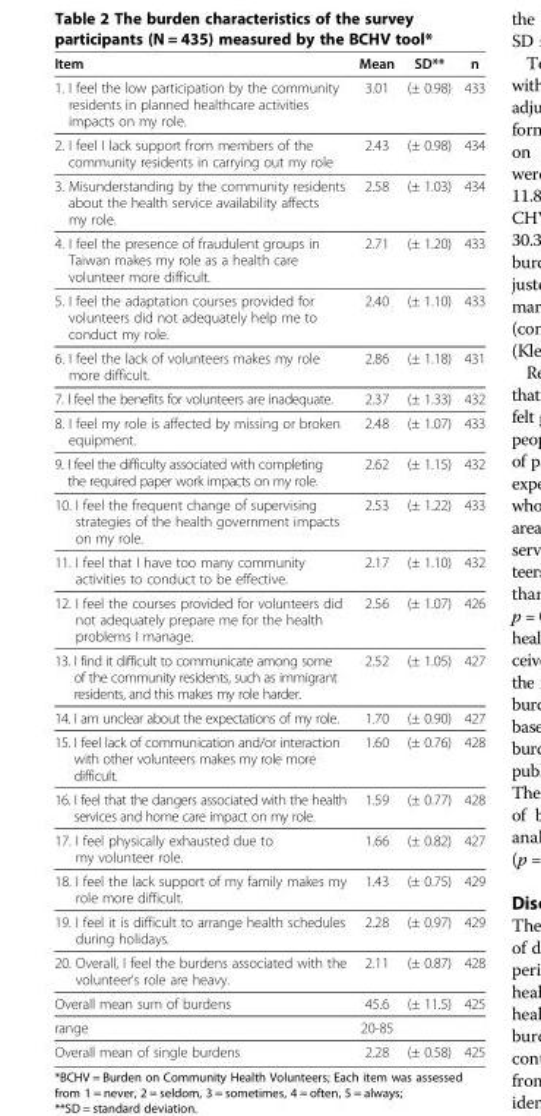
<table><thead><tr><td>Item</td><td>Mean</td><td>SD**</td><td>n</td></tr></thead><tbody><tr><td>1. I feel the low participation by the community residents in planned healthcare activities impacts on my role.</td><td>3.01</td><td>(± 0.98)</td><td>433</td></tr><tr><td>2. I feel I lack support from members of the community residents in carrying out my role</td><td>2.43</td><td>(± 0.98)</td><td>434</td></tr><tr><td>3. Misunderstanding by the community residents about the health service availability affects my role.</td><td>2.58</td><td>(± 1.03)</td><td>434</td></tr><tr><td>4. I feel the presence of fraudulent groups in Taiwan makes my role as a health care volunteer more difficult.</td><td>2.71</td><td>(± 1.20)</td><td>433</td></tr><tr><td>5. I feel the adaptation courses provided for volunteers did not adequately help me to conduct my role.</td><td>2.40</td><td>(± 1.10)</td><td>433</td></tr><tr><td>6. I feel the lack of volunteers makes my role more difficult.</td><td>2.86</td><td>(± 1.18)</td><td>431</td></tr><tr><td>7. I feel the benefits for volunteers are inadequate.</td><td>2.37</td><td>(± 1.33)</td><td>432</td></tr><tr><td>8. I feel my role is affected by missing or broken equipment.</td><td>2.48</td><td>(± 1.07)</td><td>433</td></tr><tr><td>9. I feel the difficulty associated with completing the required paper work impacts on my role.</td><td>2.62</td><td>(± 1.15)</td><td>432</td></tr><tr><td>10. I feel the frequent change of supervising strategies of the health government impacts on my role.</td><td>2.53</td><td>(± 1.22)</td><td>433</td></tr><tr><td>11. I feel that I have too many community activities to conduct to be effective.</td><td>2.17</td><td>(± 1.10)</td><td>432</td></tr><tr><td>12. I feel the courses provided for volunteers did not adequately prepare me for the health problems I manage.</td><td>2.56</td><td>(± 1.07)</td><td>426</td></tr><tr><td>13. I find it difficult to communicate among some of the community residents, such as immigrant residents, and this makes my role harder.</td><td>2.52</td><td>(± 1.05)</td><td>427</td></tr><tr><td>14. I am unclear about the expectations of my role.</td><td>1.70</td><td>(± 0.90)</td><td>427</td></tr><tr><td>15. I feel lack of communication and/or interaction with other volunteers makes my role more difficult.</td><td>1.60</td><td>(± 0.76)</td><td>428</td></tr><tr><td>16. I feel that the dangers associated with the health services and home care impact on my role.</td><td>1.59</td><td>(± 0.77)</td><td>428</td></tr><tr><td>17. I feel physically exhausted due to my volunteer role.</td><td>1.66</td><td>(± 0.82)</td><td>427</td></tr><tr><td>18. I feel the lack support of my family makes my role more difficult.</td><td>1.43</td><td>(± 0.75)</td><td>429</td></tr><tr><td>19. I feel it is difficult to arrange health schedules during holidays.</td><td>2.28</td><td>(± 0.97)</td><td>429</td></tr><tr><td>20. Overall, I feel the burdens associated with the volunteer’s role are heavy.</td><td>2.11</td><td>(± 0.87)</td><td>428</td></tr><tr><td>Overall mean sum of burdens</td><td>45.6</td><td>(± 11.5)</td><td>425</td></tr><tr><td>range</td><td>20-85</td><td></td><td></td></tr><tr><td>Overall mean of single burdens</td><td>2.28</td><td>(± 0.58)</td><td>425</td></tr></tbody></table>